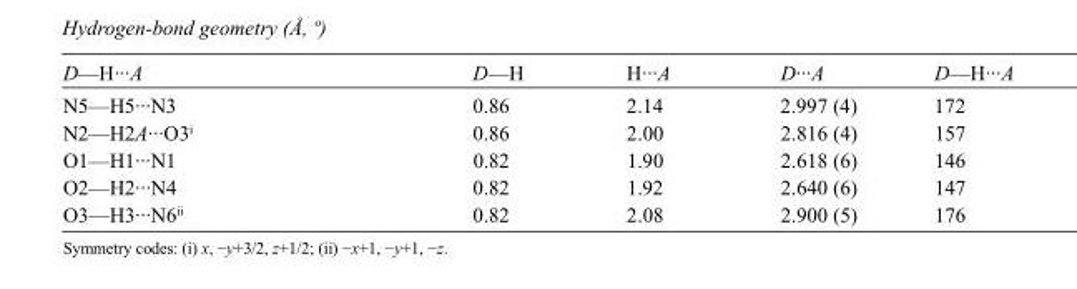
<table><tbody><tr><td>D—H···A</td><td>D—H</td><td>H···A</td><td>D···A</td><td>D—H···A</td></tr><tr><td>N5—H5···N3</td><td>0.86</td><td>2.14</td><td>2.997 (4)</td><td>172</td></tr><tr><td>N2—H2A···O3<sup>i</sup></td><td>0.86</td><td>2.00</td><td>2.816 (4)</td><td>157</td></tr><tr><td>O1—H1···N1</td><td>0.82</td><td>1.90</td><td>2.618 (6)</td><td>146</td></tr><tr><td>O2—H2···N4</td><td>0.82</td><td>1.92</td><td>2.640 (6)</td><td>147</td></tr><tr><td>O3—H3···N6<sup>ii</sup></td><td>0.82</td><td>2.08</td><td>2.900 (5)</td><td>176</td></tr></tbody></table>